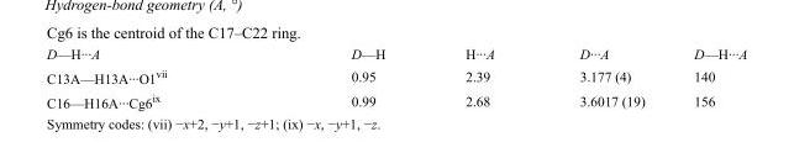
<table><tbody><tr><td>D—H···A</td><td>D—H</td><td>H···A</td><td>D···A</td><td>D—H···A</td></tr><tr><td>C13A—H13A···O1<sup>vii</sup></td><td>0.95</td><td>2.39</td><td>3.177 (4)</td><td>140</td></tr><tr><td>C16—H16A···Cg6<sup>ix</sup></td><td>0.99</td><td>2.68</td><td>3.6017 (19)</td><td>156</td></tr></tbody></table>